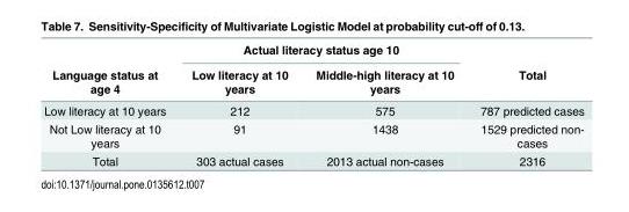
<table><thead><tr><td rowspan="2">Language status at age 4</td><td colspan="2">Actual literacy status age 10</td><td rowspan="2">Total</td></tr><tr><td>Low literacy at 10 years</td><td>Middle-high literacy at 10 years</td></tr></thead><tbody><tr><td>Low literacy at 10 years</td><td>212</td><td>575</td><td>787 predicted cases</td></tr><tr><td>Not Low literacy at 10 years</td><td>91</td><td>1438</td><td>1529 predicted non- cases</td></tr><tr><td>Total</td><td>303 actual cases</td><td>2013 actual non-cases</td><td>2316</td></tr></tbody></table>